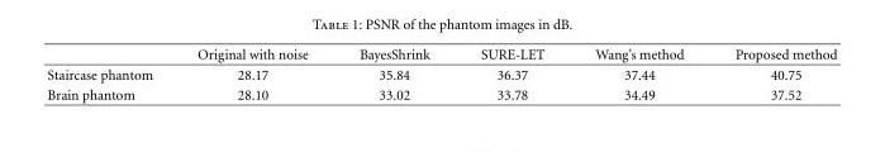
<table><thead><tr><td></td><td>Original with noise</td><td>BayesShrink</td><td>SURE-LET</td><td>Wang’s method</td><td>Proposed method</td></tr></thead><tbody><tr><td>Staircase phantom</td><td>28.17</td><td>35.84</td><td>36.37</td><td>37.44</td><td>40.75</td></tr><tr><td>Brain phantom</td><td>28.10</td><td>33.02</td><td>33.78</td><td>34.49</td><td>37.52</td></tr></tbody></table>